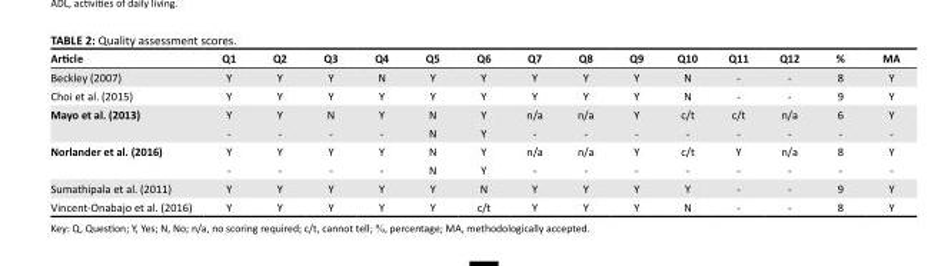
<table><thead><tr><td>Article</td><td>Q1</td><td>Q2</td><td>Q3</td><td>Q4</td><td>Q5</td><td>Q6</td><td>Q7</td><td>Q8</td><td>Q9</td><td>Q10</td><td>Q11</td><td>Q12</td><td>%</td><td>MA</td></tr></thead><tbody><tr><td>Beckley (2007)</td><td>Y</td><td>Y</td><td>Y</td><td>N</td><td>Y</td><td>Y</td><td>Y</td><td>Y</td><td>Y</td><td>N</td><td>-</td><td>-</td><td>8</td><td>Y</td></tr><tr><td>Choi et al. (2015)</td><td>Y</td><td>Y</td><td>Y</td><td>Y</td><td>Y</td><td>Y</td><td>Y</td><td>Y</td><td>Y</td><td>N</td><td>-</td><td>-</td><td>9</td><td>Y</td></tr><tr><td rowspan="2">Mayo et al. (2013)</td><td>Y</td><td>Y</td><td>N</td><td>Y</td><td>N</td><td>Y</td><td>n/a</td><td>n/a</td><td>Y</td><td>c/t</td><td>c/t</td><td>n/a</td><td>6</td><td>Y</td></tr><tr><td>-</td><td>-</td><td>-</td><td>-</td><td>N</td><td>Y</td><td>-</td><td>-</td><td>-</td><td>-</td><td>-</td><td>-</td><td>-</td><td>-</td></tr><tr><td rowspan="2">Norlander et al. (2016)</td><td>Y</td><td>Y</td><td>Y</td><td>Y</td><td>N</td><td>Y</td><td>n/a</td><td>n/a</td><td>Y</td><td>c/t</td><td>Y</td><td>n/a</td><td>8</td><td>Y</td></tr><tr><td>-</td><td>-</td><td>-</td><td>-</td><td>N</td><td>Y</td><td>-</td><td>-</td><td>-</td><td>-</td><td>-</td><td>-</td><td>-</td><td>-</td></tr><tr><td>Sumathipala et al. (2011)</td><td>Y</td><td>Y</td><td>Y</td><td>Y</td><td>Y</td><td>N</td><td>Y</td><td>Y</td><td>Y</td><td>Y</td><td>-</td><td>-</td><td>9</td><td>Y</td></tr><tr><td>Vincent-Onabajo et al. (2016)</td><td>Y</td><td>Y</td><td>Y</td><td>Y</td><td>Y</td><td>c/t</td><td>Y</td><td>Y</td><td>Y</td><td>N</td><td>-</td><td>-</td><td>8</td><td>Y</td></tr></tbody></table>